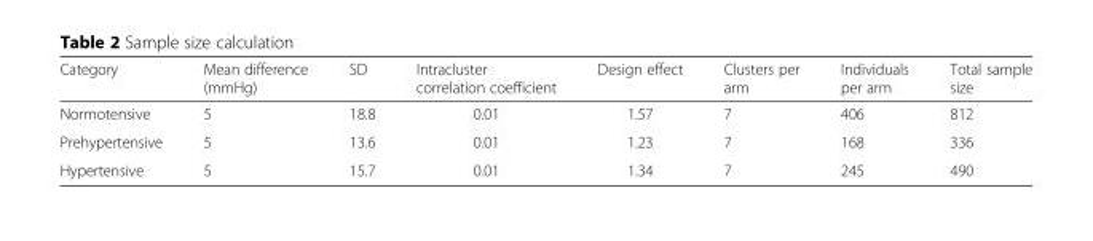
<table><thead><tr><td>Category</td><td>Mean difference (mmHg)</td><td>SD</td><td>Intracluster correlation coefficient</td><td>Design effect</td><td>Clusters per arm</td><td>Individuals per arm</td><td>Total sample size</td></tr></thead><tbody><tr><td>Normotensive</td><td>5</td><td>18.8</td><td>0.01</td><td>1.57</td><td>7</td><td>406</td><td>812</td></tr><tr><td>Prehypertensive</td><td>5</td><td>13.6</td><td>0.01</td><td>1.23</td><td>7</td><td>168</td><td>336</td></tr><tr><td>Hypertensive</td><td>5</td><td>15.7</td><td>0.01</td><td>1.34</td><td>7</td><td>245</td><td>490</td></tr></tbody></table>